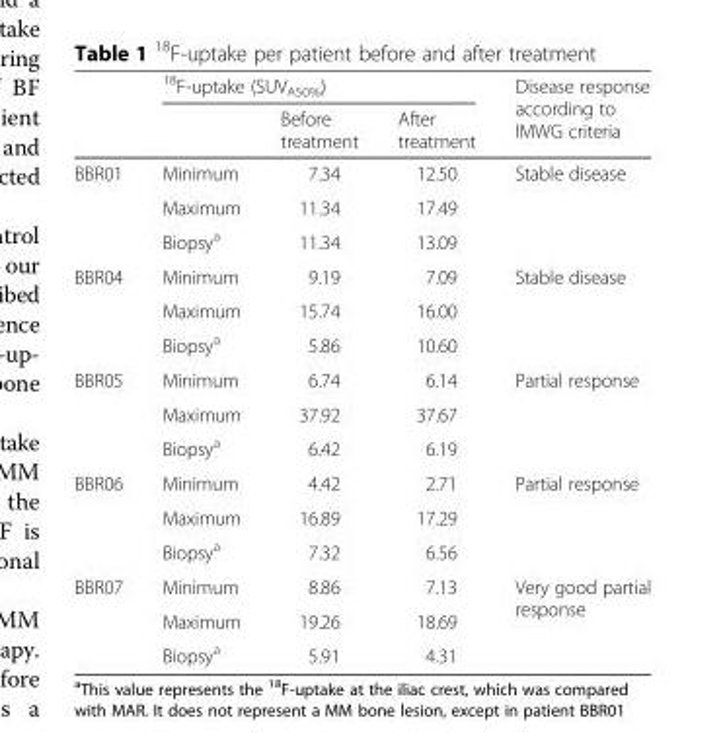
<table><thead><tr><td rowspan="2"></td><td colspan="3"><sup>18</sup>F-uptake (SUV<sub>A50%</sub>)</td><td rowspan="2">Disease response according to IMWG criteria</td></tr><tr><td></td><td>Before treatment</td><td>After treatment</td></tr></thead><tbody><tr><td rowspan="3">BBR01</td><td>Minimum</td><td>7.34</td><td>12.50</td><td rowspan="3">Stable disease</td></tr><tr><td>Maximum</td><td>11.34</td><td>17.49</td></tr><tr><td>Biopsy<sup>a</sup></td><td>11.34</td><td>13.09</td></tr><tr><td rowspan="3">BBR04</td><td>Minimum</td><td>9.19</td><td>7.09</td><td rowspan="3">Stable disease</td></tr><tr><td>Maximum</td><td>15.74</td><td>16.00</td></tr><tr><td>Biopsy<sup>a</sup></td><td>5.86</td><td>10.60</td></tr><tr><td rowspan="3">BBR05</td><td>Minimum</td><td>6.74</td><td>6.14</td><td rowspan="3">Partial response</td></tr><tr><td>Maximum</td><td>37.92</td><td>37.67</td></tr><tr><td>Biopsy<sup>a</sup></td><td>6.42</td><td>6.19</td></tr><tr><td rowspan="3">BBR06</td><td>Minimum</td><td>4.42</td><td>2.71</td><td rowspan="3">Partial response</td></tr><tr><td>Maximum</td><td>16.89</td><td>17.29</td></tr><tr><td>Biopsy<sup>a</sup></td><td>7.32</td><td>6.56</td></tr><tr><td rowspan="3">BBR07</td><td>Minimum</td><td>8.86</td><td>7.13</td><td rowspan="3">Very good partial response</td></tr><tr><td>Maximum</td><td>19.26</td><td>18.69</td></tr><tr><td>Biopsy<sup>a</sup></td><td>5.91</td><td>4.31</td></tr></tbody></table>